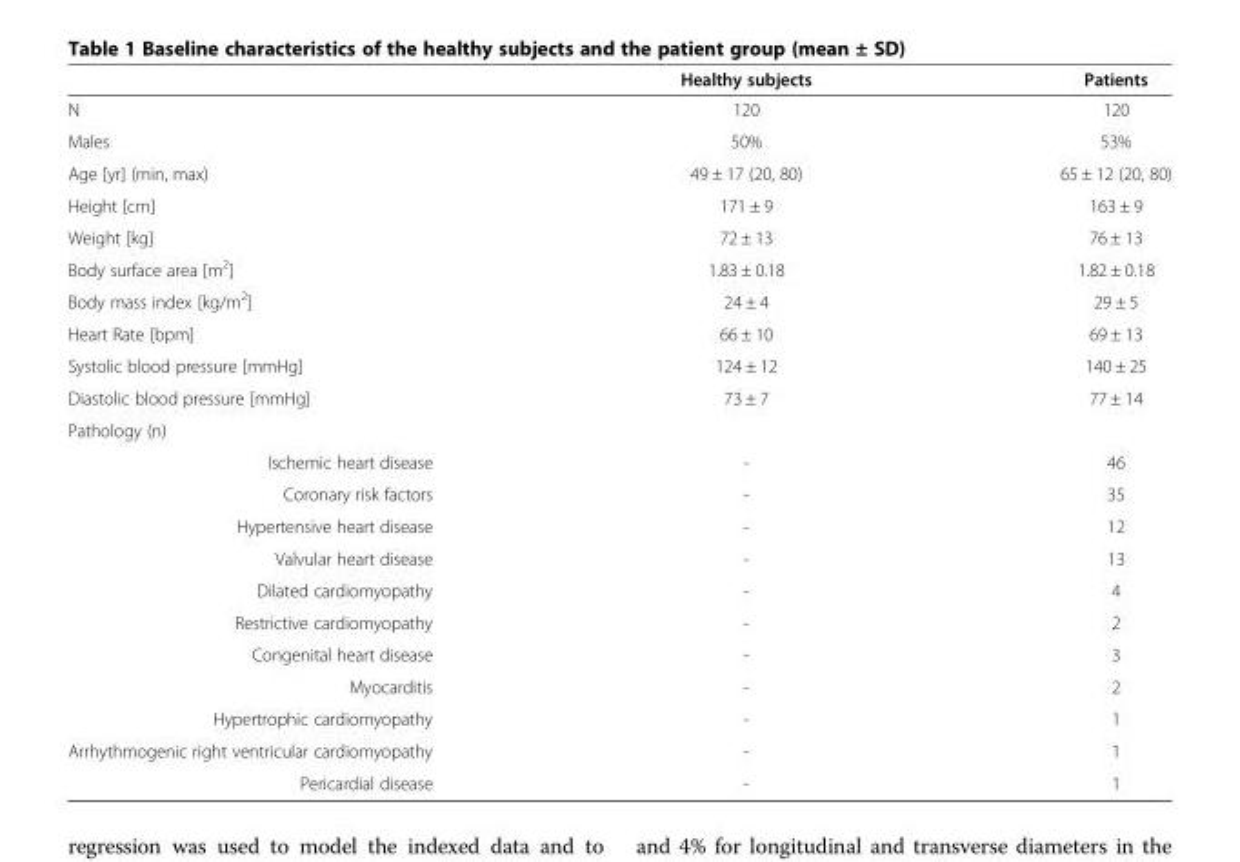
<table><thead><tr><td></td><td>Healthy subjects</td><td>Patients</td></tr></thead><tbody><tr><td>N</td><td>120</td><td>120</td></tr><tr><td>Males</td><td>50%</td><td>53%</td></tr><tr><td>Age [yr] (min, max)</td><td>49 ± 17 (20, 80)</td><td>65 ± 12 (20, 80)</td></tr><tr><td>Height [cm]</td><td>171 ± 9</td><td>163 ± 9</td></tr><tr><td>Weight [kg]</td><td>72 ± 13</td><td>76 ± 13</td></tr><tr><td>Body surface area [m<sup>2</sup>]</td><td>1.83 ± 0.18</td><td>1.82 ± 0.18</td></tr><tr><td>Body mass index [kg/m<sup>2</sup>]</td><td>24 ± 4</td><td>29 ± 5</td></tr><tr><td>Heart Rate [bpm]</td><td>66 ± 10</td><td>69 ± 13</td></tr><tr><td>Systolic blood pressure [mmHg]</td><td>124 ± 12</td><td>140 ± 25</td></tr><tr><td>Diastolic blood pressure [mmHg]</td><td>73 ± 7</td><td>77 ± 14</td></tr><tr><td colspan="3">Pathology (n)</td></tr><tr><td>Ischemic heart disease</td><td>-</td><td>46</td></tr><tr><td>Coronary risk factors</td><td>-</td><td>35</td></tr><tr><td>Hypertensive heart disease</td><td>-</td><td>12</td></tr><tr><td>Valvular heart disease</td><td>-</td><td>13</td></tr><tr><td>Dilated cardiomyopathy</td><td>-</td><td>4</td></tr><tr><td>Restrictive cardiomyopathy</td><td>-</td><td>2</td></tr><tr><td>Congenital heart disease</td><td>-</td><td>3</td></tr><tr><td>Myocarditis</td><td>-</td><td>2</td></tr><tr><td>Hypertrophic cardiomyopathy</td><td>-</td><td>1</td></tr><tr><td>Arrhythmogenic right ventricular cardiomyopathy</td><td>-</td><td>1</td></tr><tr><td>Pericardial disease</td><td>-</td><td>1</td></tr></tbody></table>